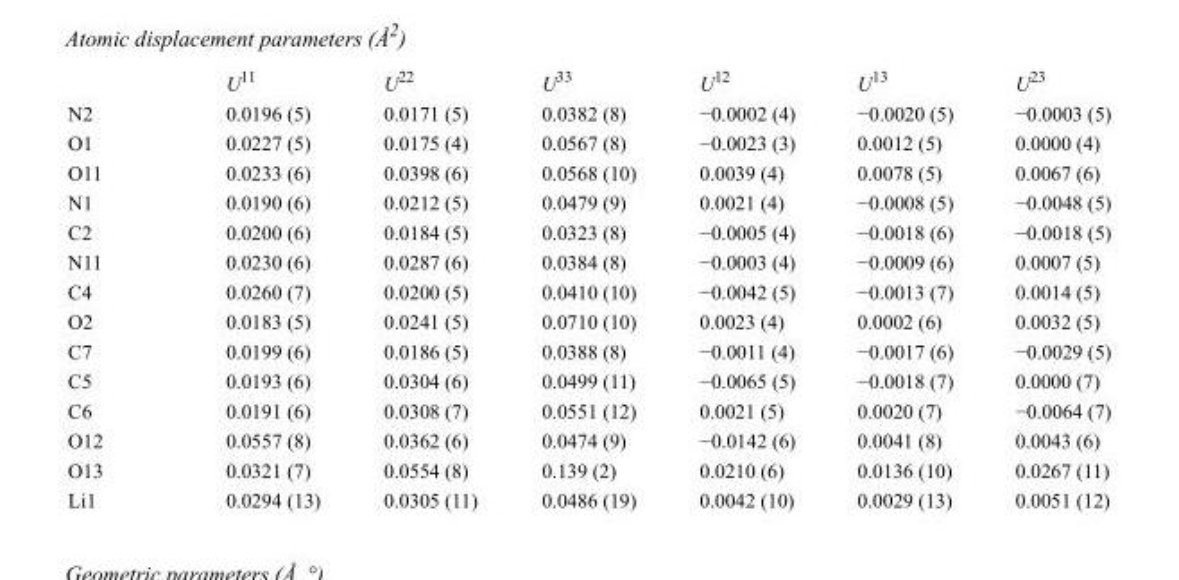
<table><thead><tr><td></td><td>U<sup>11</sup></td><td>U<sup>22</sup></td><td>U<sup>33</sup></td><td>U<sup>12</sup></td><td>U<sup>13</sup></td><td>U<sup>23</sup></td></tr></thead><tbody><tr><td>N2</td><td>0.0196 (5)</td><td>0.0171 (5)</td><td>0.0382 (8)</td><td>−0.0002 (4)</td><td>−0.0020 (5)</td><td>−0.0003 (5)</td></tr><tr><td>O1</td><td>0.0227 (5)</td><td>0.0175 (4)</td><td>0.0567 (8)</td><td>−0.0023 (3)</td><td>0.0012 (5)</td><td>0.0000 (4)</td></tr><tr><td>O11</td><td>0.0233 (6)</td><td>0.0398 (6)</td><td>0.0568 (10)</td><td>0.0039 (4)</td><td>0.0078 (5)</td><td>0.0067 (6)</td></tr><tr><td>N1</td><td>0.0190 (6)</td><td>0.0212 (5)</td><td>0.0479 (9)</td><td>0.0021 (4)</td><td>−0.0008 (5)</td><td>−0.0048 (5)</td></tr><tr><td>C2</td><td>0.0200 (6)</td><td>0.0184 (5)</td><td>0.0323 (8)</td><td>−0.0005 (4)</td><td>−0.0018 (6)</td><td>−0.0018 (5)</td></tr><tr><td>N11</td><td>0.0230 (6)</td><td>0.0287 (6)</td><td>0.0384 (8)</td><td>−0.0003 (4)</td><td>−0.0009 (6)</td><td>0.0007 (5)</td></tr><tr><td>C4</td><td>0.0260 (7)</td><td>0.0200 (5)</td><td>0.0410 (10)</td><td>−0.0042 (5)</td><td>−0.0013 (7)</td><td>0.0014 (5)</td></tr><tr><td>O2</td><td>0.0183 (5)</td><td>0.0241 (5)</td><td>0.0710 (10)</td><td>0.0023 (4)</td><td>0.0002 (6)</td><td>0.0032 (5)</td></tr><tr><td>C7</td><td>0.0199 (6)</td><td>0.0186 (5)</td><td>0.0388 (8)</td><td>−0.0011 (4)</td><td>−0.0017 (6)</td><td>−0.0029 (5)</td></tr><tr><td>C5</td><td>0.0193 (6)</td><td>0.0304 (6)</td><td>0.0499 (11)</td><td>−0.0065 (5)</td><td>−0.0018 (7)</td><td>0.0000 (7)</td></tr><tr><td>C6</td><td>0.0191 (6)</td><td>0.0308 (7)</td><td>0.0551 (12)</td><td>0.0021 (5)</td><td>0.0020 (7)</td><td>−0.0064 (7)</td></tr><tr><td>O12</td><td>0.0557 (8)</td><td>0.0362 (6)</td><td>0.0474 (9)</td><td>−0.0142 (6)</td><td>0.0041 (8)</td><td>0.0043 (6)</td></tr><tr><td>O13</td><td>0.0321 (7)</td><td>0.0554 (8)</td><td>0.139 (2)</td><td>0.0210 (6)</td><td>0.0136 (10)</td><td>0.0267 (11)</td></tr><tr><td>Li1</td><td>0.0294 (13)</td><td>0.0305 (11)</td><td>0.0486 (19)</td><td>0.0042 (10)</td><td>0.0029 (13)</td><td>0.0051 (12)</td></tr></tbody></table>